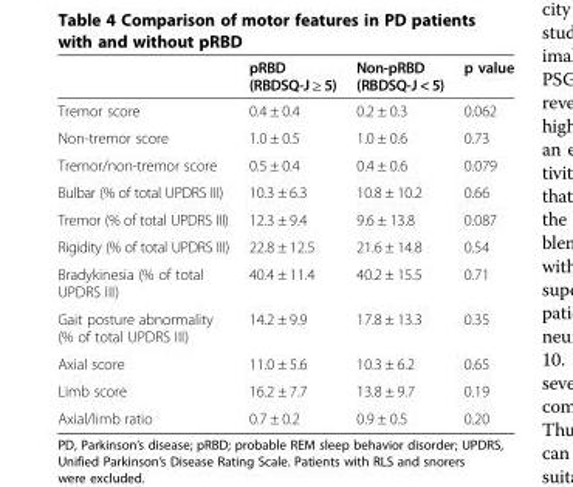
<table><thead><tr><td></td><td>pRBD (RBDSQ-J ≥ 5)</td><td>Non-pRBD (RBDSQ-J &lt; 5)</td><td>p value</td></tr></thead><tbody><tr><td>Tremor score</td><td>0.4 ± 0.4</td><td>0.2 ± 0.3</td><td>0.062</td></tr><tr><td>Non-tremor score</td><td>1.0 ± 0.5</td><td>1.0 ± 0.6</td><td>0.73</td></tr><tr><td>Tremor/non-tremor score</td><td>0.5 ± 0.4</td><td>0.4 ± 0.6</td><td>0.079</td></tr><tr><td>Bulbar (% of total UPDRS III)</td><td>10.3 ± 6.3</td><td>10.8 ± 10.2</td><td>0.66</td></tr><tr><td>Tremor (% of total UPDRS III)</td><td>12.3 ± 9.4</td><td>9.6 ± 13.8</td><td>0.087</td></tr><tr><td>Rigidity (% of total UPDRS III)</td><td>22.8 ± 12.5</td><td>21.6 ± 14.8</td><td>0.54</td></tr><tr><td>Bradykinesia (% of total UPDRS III)</td><td>40.4 ± 11.4</td><td>40.2 ± 15.5</td><td>0.71</td></tr><tr><td>Gait posture abnormality (% of total UPDRS III)</td><td>14.2 ± 9.9</td><td>17.8 ± 13.3</td><td>0.35</td></tr><tr><td>Axial score</td><td>11.0 ± 5.6</td><td>10.3 ± 6.2</td><td>0.65</td></tr><tr><td>Limb score</td><td>16.2 ± 7.7</td><td>13.8 ± 9.7</td><td>0.19</td></tr><tr><td>Axial/limb ratio</td><td>0.7 ± 0.2</td><td>0.9 ± 0.5</td><td>0.20</td></tr></tbody></table>